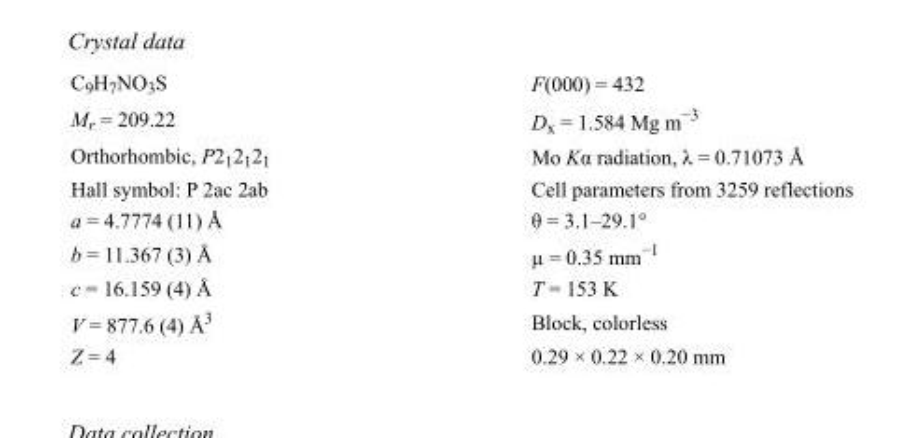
<table><tbody><tr><td>C<sub>9</sub>H<sub>7</sub>NO<sub>3</sub>S</td><td>F(000) = 432</td></tr><tr><td>M<sub>r</sub> = 209.22</td><td>D<sub>x</sub> = 1.584 Mg m<sup>−3</sup></td></tr><tr><td>Orthorhombic, P2<sub>1</sub>2<sub>1</sub>2<sub>1</sub></td><td>Mo Kα radiation, λ = 0.71073 Å</td></tr><tr><td>Hall symbol: P 2ac 2ab</td><td>Cell parameters from 3259 reflections</td></tr><tr><td>a = 4.7774 (11) Å</td><td>θ = 3.1–29.1°</td></tr><tr><td>b = 11.367 (3) Å</td><td>µ = 0.35 mm<sup>−1</sup></td></tr><tr><td>c = 16.159 (4) Å</td><td>T = 153 K</td></tr><tr><td>V = 877.6 (4) Å<sup>3</sup></td><td>Block, colorless</td></tr><tr><td>Z = 4</td><td>0.29 × 0.22 × 0.20 mm</td></tr></tbody></table>